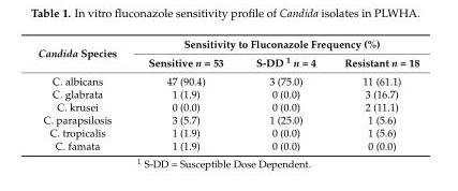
<table><thead><tr><td rowspan="2">Candida Species</td><td colspan="3">Sensitivity to Fluconazole Frequency (%)</td></tr><tr><td>Sensitive n = 53</td><td>S-DD <sup>1</sup> n = 4</td><td>Resistant n = 18</td></tr></thead><tbody><tr><td>C. albicans</td><td>47 (90.4)</td><td>3 (75.0)</td><td>11 (61.1)</td></tr><tr><td>C. glabrata</td><td>1 (1.9)</td><td>0 (0.0)</td><td>3 (16.7)</td></tr><tr><td>C. krusei</td><td>0 (0.0)</td><td>0 (0.0)</td><td>2 (11.1)</td></tr><tr><td>C. parapsilosis</td><td>3 (5.7)</td><td>1 (25.0)</td><td>1 (5.6)</td></tr><tr><td>C. tropicalis</td><td>1 (1.9)</td><td>0 (0.0)</td><td>1 (5.6)</td></tr><tr><td>C. famata</td><td>1 (1.9)</td><td>0 (0.0)</td><td>0 (0.0)</td></tr></tbody></table>